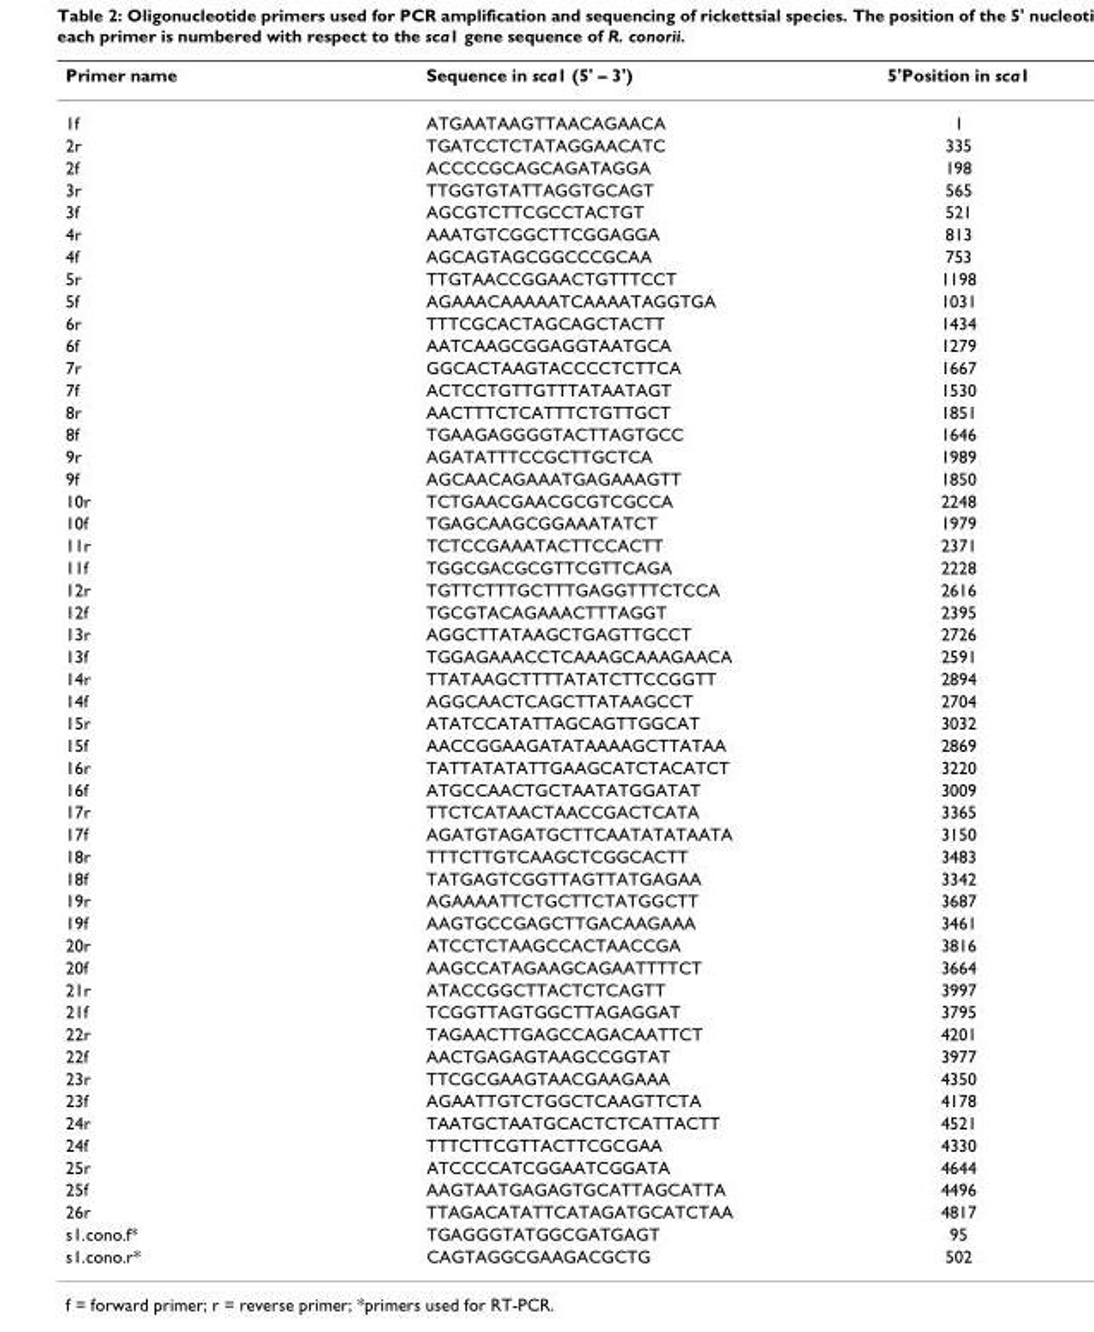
<table><thead><tr><td>Primer name</td><td>Sequence in sca1 (5&#x27; – 3&#x27;)</td><td>5&#x27;Position in sca1</td></tr></thead><tbody><tr><td>1f</td><td>ATGAATAAGTTAACAGAACA</td><td>1</td></tr><tr><td>2r</td><td>TGATCCTCTATAGGAACATC</td><td>335</td></tr><tr><td>2f</td><td>ACCCCGCAGCAGATAGGA</td><td>198</td></tr><tr><td>3r</td><td>TTGGTGTATTAGGTGCAGT</td><td>565</td></tr><tr><td>3f</td><td>AGCGTCTTCGCCTACTGT</td><td>521</td></tr><tr><td>4r</td><td>AAATGTCGGCTTCGGAGGA</td><td>813</td></tr><tr><td>4f</td><td>AGCAGTAGCGGCCCGCAA</td><td>753</td></tr><tr><td>5r</td><td>TTGTAACCGGAACTGTTTCCT</td><td>1198</td></tr><tr><td>5f</td><td>AGAAACAAAAATCAAAATAGGTGA</td><td>1031</td></tr><tr><td>6r</td><td>TTTCGCACTAGCAGCTACTT</td><td>1434</td></tr><tr><td>6f</td><td>AATCAAGCGGAGGTAATGCA</td><td>1279</td></tr><tr><td>7r</td><td>GGCACTAAGTACCCCTCTTCA</td><td>1667</td></tr><tr><td>7f</td><td>ACTCCTGTTGTTTATAATAGT</td><td>1530</td></tr><tr><td>8r</td><td>AACTTTCTCATTTCTGTTGCT</td><td>1851</td></tr><tr><td>8f</td><td>TGAAGAGGGGTACTTAGTGCC</td><td>1646</td></tr><tr><td>9r</td><td>AGATATTTCCGCTTGCTCA</td><td>1989</td></tr><tr><td>9f</td><td>AGCAACAGAAATGAGAAAGTT</td><td>1850</td></tr><tr><td>10r</td><td>TCTGAACGAACGCGTCGCCA</td><td>2248</td></tr><tr><td>10f</td><td>TGAGCAAGCGGAAATATCT</td><td>1979</td></tr><tr><td>11r</td><td>TCTCCGAAATACTTCCACTT</td><td>2371</td></tr><tr><td>11f</td><td>TGGCGACGCGTTCGTTCAGA</td><td>2228</td></tr><tr><td>12r</td><td>TGTTCTTTGCTTTGAGGTTTCTCCA</td><td>2616</td></tr><tr><td>12f</td><td>TGCGTACAGAAACTTTAGGT</td><td>2395</td></tr><tr><td>13r</td><td>AGGCTTATAAGCTGAGTTGCCT</td><td>2726</td></tr><tr><td>13f</td><td>TGGAGAAACCTCAAAGCAAAGAACA</td><td>2591</td></tr><tr><td>14r</td><td>TTATAAGCTTTTATATCTTCCGGTT</td><td>2894</td></tr><tr><td>14f</td><td>AGGCAACTCAGCTTATAAGCCT</td><td>2704</td></tr><tr><td>15r</td><td>ATATCCATATTAGCAGTTGGCAT</td><td>3032</td></tr><tr><td>15f</td><td>AACCGGAAGATATAAAAGCTTATAA</td><td>2869</td></tr><tr><td>16r</td><td>TATTATATATTGAAGCATCTACATCT</td><td>3220</td></tr><tr><td>16f</td><td>ATGCCAACTGCTAATATGGATAT</td><td>3009</td></tr><tr><td>17r</td><td>TTCTCATAACTAACCGACTCATA</td><td>3365</td></tr><tr><td>17f</td><td>AGATGTAGATGCTTCAATATATAATA</td><td>3150</td></tr><tr><td>18r</td><td>TTTCTTGTCAAGCTCGGCACTT</td><td>3483</td></tr><tr><td>18f</td><td>TATGAGTCGGTTAGTTATGAGAA</td><td>3342</td></tr><tr><td>19r</td><td>AGAAAATTCTGCTTCTATGGCTT</td><td>3687</td></tr><tr><td>19f</td><td>AAGTGCCGAGCTTGACAAGAAA</td><td>3461</td></tr><tr><td>20r</td><td>ATCCTCTAAGCCACTAACCGA</td><td>3816</td></tr><tr><td>20f</td><td>AAGCCATAGAAGCAGAATTTTCT</td><td>3664</td></tr><tr><td>21r</td><td>ATACCGGCTTACTCTCAGTT</td><td>3997</td></tr><tr><td>21f</td><td>TCGGTTAGTGGCTTAGAGGAT</td><td>3795</td></tr><tr><td>22r</td><td>TAGAACTTGAGCCAGACAATTCT</td><td>4201</td></tr><tr><td>22f</td><td>AACTGAGAGTAAGCCGGTAT</td><td>3977</td></tr><tr><td>23r</td><td>TTCGCGAAGTAACGAAGAAA</td><td>4350</td></tr><tr><td>23f</td><td>AGAATTGTCTGGCTCAAGTTCTA</td><td>4178</td></tr><tr><td>24r</td><td>TAATGCTAATGCACTCTCATTACTT</td><td>4521</td></tr><tr><td>24f</td><td>TTTCTTCGTTACTTCGCGAA</td><td>4330</td></tr><tr><td>25r</td><td>ATCCCCATCGGAATCGGATA</td><td>4644</td></tr><tr><td>25f</td><td>AAGTAATGAGAGTGCATTAGCATTA</td><td>4496</td></tr><tr><td>26r</td><td>TTAGACATATTCATAGATGCATCTAA</td><td>4817</td></tr><tr><td>s1.cono.f*</td><td>TGAGGGTATGGCGATGAGT</td><td>95</td></tr><tr><td>s1.cono.r*</td><td>CAGTAGGCGAAGACGCTG</td><td>502</td></tr></tbody></table>